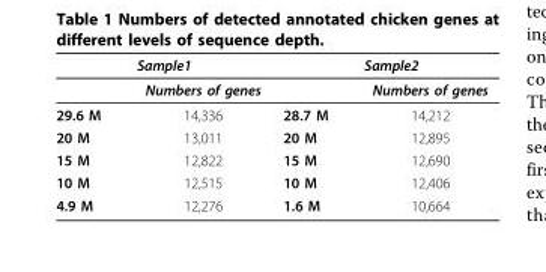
<table><thead><tr><td colspan="2">Sample1</td><td colspan="2">Sample2</td></tr><tr><td></td><td>Numbers of genes</td><td></td><td>Numbers of genes</td></tr></thead><tbody><tr><td>29.6 M</td><td>14,336</td><td>28.7 M</td><td>14,212</td></tr><tr><td>20 M</td><td>13,011</td><td>20 M</td><td>12,895</td></tr><tr><td>15 M</td><td>12,822</td><td>15 M</td><td>12,690</td></tr><tr><td>10 M</td><td>12,515</td><td>10 M</td><td>12,406</td></tr><tr><td>4.9 M</td><td>12,276</td><td>1.6 M</td><td>10,664</td></tr></tbody></table>